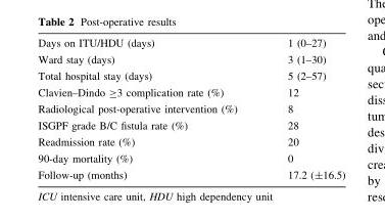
<table><tbody><tr><td>Days on ITU/HDU (days)</td><td>1 (0–27)</td></tr><tr><td>Ward stay (days)</td><td>3 (1–30)</td></tr><tr><td>Total hospital stay (days)</td><td>5 (2–57)</td></tr><tr><td>Clavien–Dindo ≥3 complication rate (%)</td><td>12</td></tr><tr><td>Radiological post-operative intervention (%)</td><td>8</td></tr><tr><td>ISGPF grade B/C fistula rate (%)</td><td>28</td></tr><tr><td>Readmission rate (%)</td><td>20</td></tr><tr><td>90-day mortality (%)</td><td>0</td></tr><tr><td>Follow-up (months)</td><td>17.2 (±16.5)</td></tr></tbody></table>